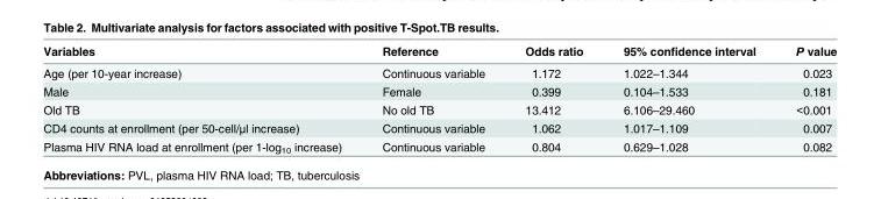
<table><thead><tr><td>Variables</td><td>Reference</td><td>Odds ratio</td><td>95% confidence interval</td><td>P value</td></tr></thead><tbody><tr><td>Age (per 10-year increase)</td><td>Continuous variable</td><td>1.172</td><td>1.022–1.344</td><td>0.023</td></tr><tr><td>Male</td><td>Female</td><td>0.399</td><td>0.104–1.533</td><td>0.181</td></tr><tr><td>Old TB</td><td>No old TB</td><td>13.412</td><td>6.106–29.460</td><td>&lt;0.001</td></tr><tr><td>CD4 counts at enrollment (per 50-cell/μl increase)</td><td>Continuous variable</td><td>1.062</td><td>1.017–1.109</td><td>0.007</td></tr><tr><td>Plasma HIV RNA load at enrollment (per 1-log<sub>10</sub> increase)</td><td>Continuous variable</td><td>0.804</td><td>0.629–1.028</td><td>0.082</td></tr></tbody></table>